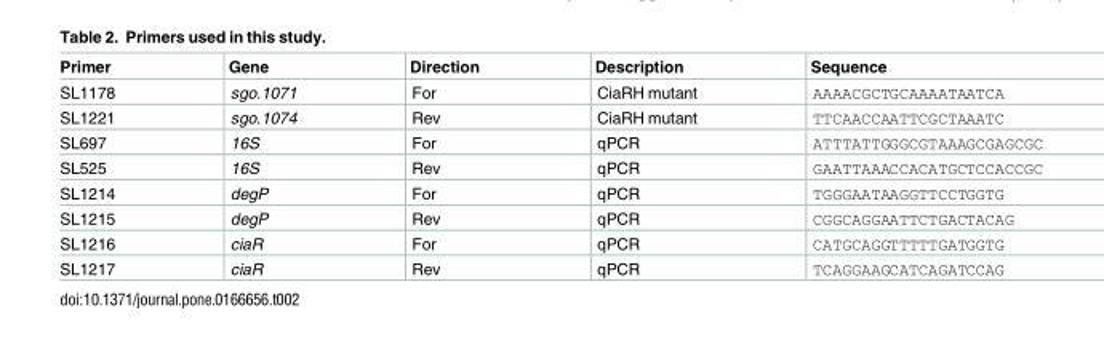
<table><thead><tr><td>Primer</td><td>Gene</td><td>Direction</td><td>Description</td><td>Sequence</td></tr></thead><tbody><tr><td>SL1178</td><td>sgo.1071</td><td>For</td><td>CiaRH mutant</td><td>AAAACGCTGCAAAATAATCA</td></tr><tr><td>SL1221</td><td>sgo.1074</td><td>Rev</td><td>CiaRH mutant</td><td>TTCAACCAATTCGCTAAATC</td></tr><tr><td>SL697</td><td>16S</td><td>For</td><td>qPCR</td><td>ATTTATTGGGCGTAAAGCGAGCGC</td></tr><tr><td>SL525</td><td>16S</td><td>Rev</td><td>qPCR</td><td>GAATTAAACCACATGCTCCACCGC</td></tr><tr><td>SL1214</td><td>degP</td><td>For</td><td>qPCR</td><td>TGGGAATAAGGTTCCTGGTG</td></tr><tr><td>SL1215</td><td>degP</td><td>Rev</td><td>qPCR</td><td>CGGCAGGAATTCTGACTACAG</td></tr><tr><td>SL1216</td><td>ciaR</td><td>For</td><td>qPCR</td><td>CATGCAGGTTTTTGATGGTG</td></tr><tr><td>SL1217</td><td>ciaR</td><td>Rev</td><td>qPCR</td><td>TCAGGAAGCATCAGATCCAG</td></tr></tbody></table>